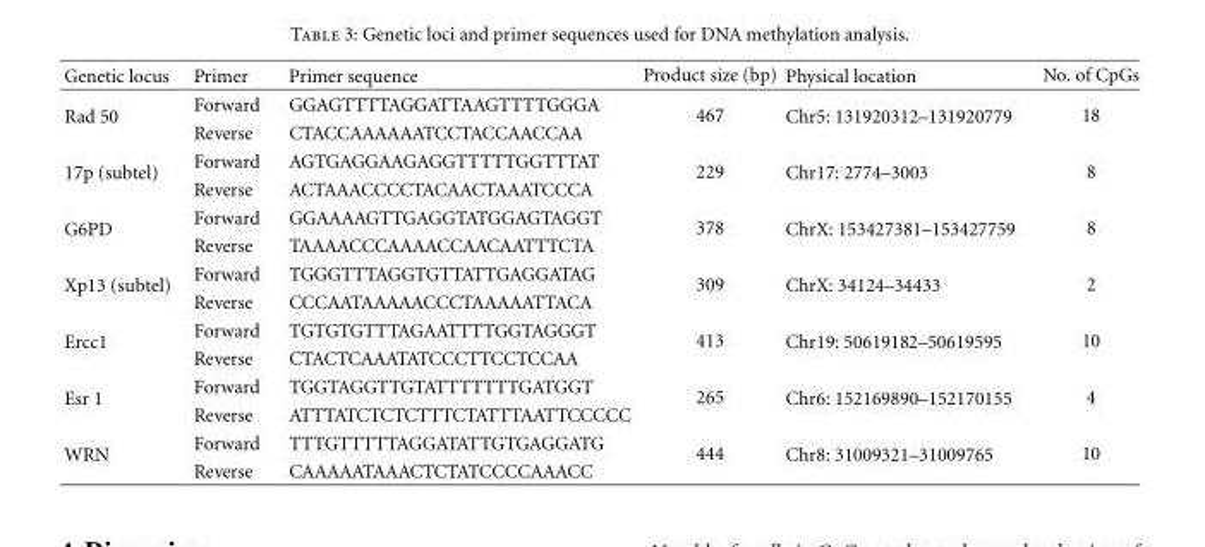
<table><thead><tr><td>Genetic locus</td><td>Primer</td><td>Primer sequence</td><td>Product size (bp)</td><td>Physical location</td><td>No. of CpGs</td></tr></thead><tbody><tr><td rowspan="2">Rad 50</td><td>Forward</td><td>GGAGTTTTAGGATTAAGTTTTGGGA</td><td rowspan="2">467</td><td rowspan="2">Chr5: 131920312–131920779</td><td rowspan="2">18</td></tr><tr><td>Reverse</td><td>CTACCAAAAAATCCTACCAACCAA</td></tr><tr><td rowspan="2">17p (subtel)</td><td>Forward</td><td>AGTGAGGAAGAGGTTTTTGGTTTAT</td><td rowspan="2">229</td><td rowspan="2">Chr17: 2774–3003</td><td rowspan="2">8</td></tr><tr><td>Reverse</td><td>ACTAAACCCCTACAACTAAATCCCA</td></tr><tr><td rowspan="2">G6PD</td><td>Forward</td><td>GGAAAAGTTGAGGTATGGAGTAGGT</td><td rowspan="2">378</td><td rowspan="2">ChrX: 153427381–153427759</td><td rowspan="2">8</td></tr><tr><td>Reverse</td><td>TAAAACCCAAAACCAACAATTTCTA</td></tr><tr><td rowspan="2">Xp13 (subtel)</td><td>Forward</td><td>TGGGTTTAGGTGTTATTGAGGATAG</td><td rowspan="2">309</td><td rowspan="2">ChrX: 34124–34433</td><td rowspan="2">2</td></tr><tr><td>Reverse</td><td>CCCAATAAAAACCCTAAAAATTACA</td></tr><tr><td rowspan="2">Ercc1</td><td>Forward</td><td>TGTGTGTTTAGAATTTTGGTAGGGT</td><td rowspan="2">413</td><td rowspan="2">Chr19: 50619182–50619595</td><td rowspan="2">10</td></tr><tr><td>Reverse</td><td>CTACTCAAATATCCCTTCCTCCAA</td></tr><tr><td rowspan="2">Esr 1</td><td>Forward</td><td>TGGTAGGTTGTATTTTTTTGATGGT</td><td rowspan="2">265</td><td rowspan="2">Chr6: 152169890–152170155</td><td rowspan="2">4</td></tr><tr><td>Reverse</td><td>ATTTATCTCTCTTTCTATTTAATTCCCCC</td></tr><tr><td rowspan="2">WRN</td><td>Forward</td><td>TTTGTTTTTAGGATATTGTGAGGATG</td><td rowspan="2">444</td><td rowspan="2">Chr8: 31009321–31009765</td><td rowspan="2">10</td></tr><tr><td>Reverse</td><td>CAAAAATAAACTCTATCCCCAAACC</td></tr></tbody></table>